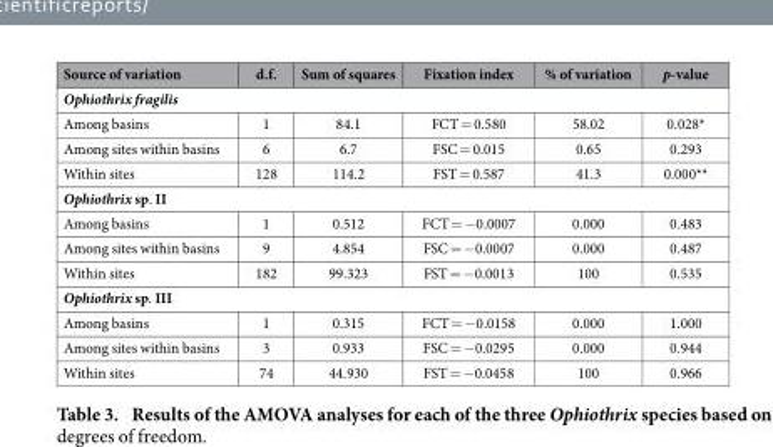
<table><thead><tr><td>Source of variation</td><td>d.f.</td><td>Sum of squares</td><td>Fixation index</td><td>% of variation</td><td>p-value</td></tr></thead><tbody><tr><td colspan="6">Ophiothrix fragilis</td></tr><tr><td>Among basins</td><td>1</td><td>84.1</td><td>FCT = 0.580</td><td>58.02</td><td>0.028*</td></tr><tr><td>Among sites within basins</td><td>6</td><td>6.7</td><td>FSC = 0.015</td><td>0.65</td><td>0.293</td></tr><tr><td>Within sites</td><td>128</td><td>114.2</td><td>FST = 0.587</td><td>41.3</td><td>0.000**</td></tr><tr><td colspan="6">Ophiothrix sp. II</td></tr><tr><td>Among basins</td><td>1</td><td>0.512</td><td>FCT = − 0.0007</td><td>0.000</td><td>0.483</td></tr><tr><td>Among sites within basins</td><td>9</td><td>4.854</td><td>FSC = − 0.0007</td><td>0.000</td><td>0.487</td></tr><tr><td>Within sites</td><td>182</td><td>99.323</td><td>FST = − 0.0013</td><td>100</td><td>0.535</td></tr><tr><td colspan="6">Ophiothrix sp. III</td></tr><tr><td>Among basins</td><td>1</td><td>0.315</td><td>FCT = − 0.0158</td><td>0.000</td><td>1.000</td></tr><tr><td>Among sites within basins</td><td>3</td><td>0.933</td><td>FSC = − 0.0295</td><td>0.000</td><td>0.944</td></tr><tr><td>Within sites</td><td>74</td><td>44.930</td><td>FST = − 0.0458</td><td>100</td><td>0.966</td></tr></tbody></table>